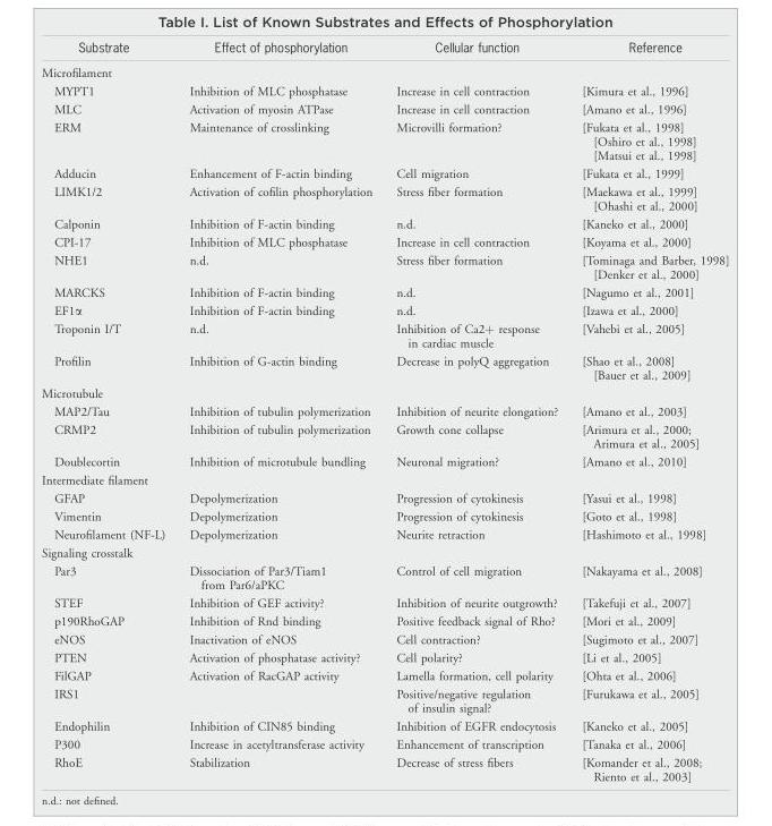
<table><thead><tr><td>Substrate</td><td>Effect of phosphorylation</td><td>Cellular function</td><td>Reference</td></tr></thead><tbody><tr><td colspan="4">Microfilament</td></tr><tr><td>MYPT1</td><td>Inhibition of MLC phosphatase</td><td>Increase in cell contraction</td><td>[Kimura et al., 1996]</td></tr><tr><td>MLC</td><td>Activation of myosin ATPase</td><td>Increase in cell contraction</td><td>[Amano et al., 1996]</td></tr><tr><td>ERM</td><td>Maintenance of crosslinking</td><td>Microvilli formation?</td><td>[Fukata et al., 1998] [Oshiro et al., 1998] [Matsui et al., 1998]</td></tr><tr><td>Adducin</td><td>Enhancement of F-actin binding</td><td>Cell migration</td><td>[Fukata et al., 1999]</td></tr><tr><td>LIMK1/2</td><td>Activation of cofilin phosphorylation</td><td>Stress fiber formation</td><td>[Maekawa et al., 1999] [Ohashi et al., 2000]</td></tr><tr><td>Calponin</td><td>Inhibition of F-actin binding</td><td>n.d.</td><td>[Kaneko et al., 2000]</td></tr><tr><td>CPI-17</td><td>Inhibition of MLC phosphatase</td><td>Increase in cell contraction</td><td>[Koyama et al., 2000]</td></tr><tr><td>NHE1</td><td>n.d.</td><td>Stress fiber formation</td><td>[Tominaga and Barber, 1998] [Denker et al., 2000]</td></tr><tr><td>MARCKS</td><td>Inhibition of F-actin binding</td><td>n.d.</td><td>[Nagumo et al., 2001]</td></tr><tr><td>EF1α</td><td>Inhibition of F-actin binding</td><td>n.d.</td><td>[Izawa et al., 2000]</td></tr><tr><td>Troponin I/T</td><td>n.d.</td><td>Inhibition of Ca2+ response in cardiac muscle</td><td>[Vahebi et al., 2005]</td></tr><tr><td>Profilin</td><td>Inhibition of G-actin binding</td><td>Decrease in polyQ aggregation</td><td>[Shao et al., 2008] [Bauer et al., 2009]</td></tr><tr><td colspan="4">Microtubule</td></tr><tr><td>MAP2/Tau</td><td>Inhibition of tubulin polymerization</td><td>Inhibition of neurite elongation?</td><td>[Amano et al., 2003]</td></tr><tr><td>CRMP2</td><td>Inhibition of tubulin polymerization</td><td>Growth cone collapse</td><td>[Arimura et al., 2000; Arimura et al., 2005]</td></tr><tr><td>Doublecortin</td><td>Inhibition of microtubule bundling</td><td>Neuronal migration?</td><td>[Amano et al., 2010]</td></tr><tr><td colspan="4">Intermediate filament</td></tr><tr><td>GFAP</td><td>Depolymerization</td><td>Progression of cytokinesis</td><td>[Yasui et al., 1998]</td></tr><tr><td>Vimentin</td><td>Depolymerization</td><td>Progression of cytokinesis</td><td>[Goto et al., 1998]</td></tr><tr><td>Neurofilament (NF-L)</td><td>Depolymerization</td><td>Neurite retraction</td><td>[Hashimoto et al., 1998]</td></tr><tr><td colspan="4">Signaling crosstalk</td></tr><tr><td>Par3</td><td>Dissociation of Par3/Tiam1 from Par6/aPKC</td><td>Control of cell migration</td><td>[Nakayama et al., 2008]</td></tr><tr><td>STEF</td><td>Inhibition of GEF activity?</td><td>Inhibition of neurite outgrowth?</td><td>[Takefuji et al., 2007]</td></tr><tr><td>p190RhoGAP</td><td>Inhibition of Rnd binding</td><td>Positive feedback signal of Rho?</td><td>[Mori et al., 2009]</td></tr><tr><td>eNOS</td><td>Inactivation of eNOS</td><td>Cell contraction?</td><td>[Sugimoto et al., 2007]</td></tr><tr><td>PTEN</td><td>Activation of phosphatase activity?</td><td>Cell polarity?</td><td>[Li et al., 2005]</td></tr><tr><td>FilGAP</td><td>Activation of RacGAP activity</td><td>Lamella formation, cell polarity</td><td>[Ohta et al., 2006]</td></tr><tr><td>IRS1</td><td></td><td>Positive/negative regulation of insulin signal?</td><td>[Furukawa et al., 2005]</td></tr><tr><td>Endophilin</td><td>Inhibition of CIN85 binding</td><td>Inhibition of EGFR endocytosis</td><td>[Kaneko et al., 2005]</td></tr><tr><td>P300</td><td>Increase in acetyltransferase activity</td><td>Enhancement of transcription</td><td>[Tanaka et al., 2006]</td></tr><tr><td>RhoE</td><td>Stabilization</td><td>Decrease of stress fibers</td><td>[Komander et al., 2008; Riento et al., 2003]</td></tr></tbody></table>